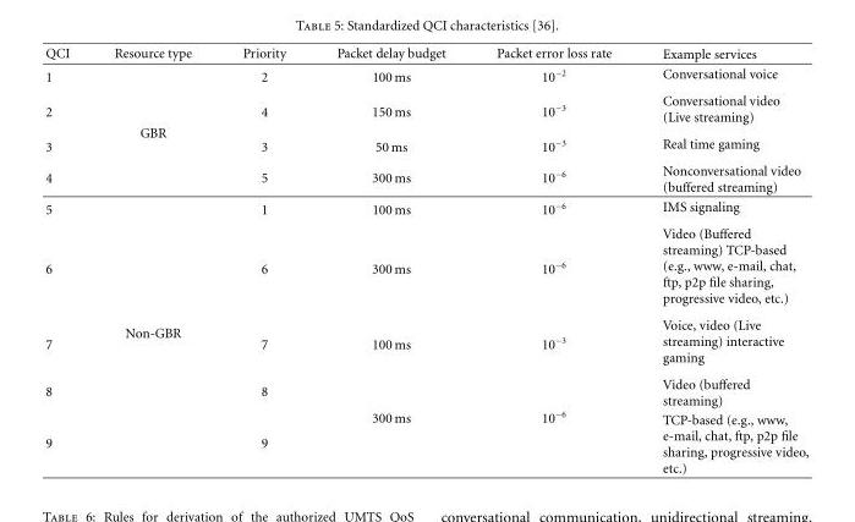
<table><thead><tr><td>QCI</td><td>Resource type</td><td>Priority</td><td>Packet delay budget</td><td>Packet error loss rate</td><td>Example services</td></tr></thead><tbody><tr><td>1</td><td rowspan="4">GBR</td><td>2</td><td>100 ms</td><td>10<sup>−2</sup></td><td>Conversational voice</td></tr><tr><td>2</td><td>4</td><td>150 ms</td><td>10<sup>−3</sup></td><td>Conversational video (Live streaming)</td></tr><tr><td>3</td><td>3</td><td>50 ms</td><td>10<sup>−3</sup></td><td>Real time gaming</td></tr><tr><td>4</td><td>5</td><td>300 ms</td><td>10<sup>−6</sup></td><td>Nonconversational video (buffered streaming)</td></tr><tr><td>5</td><td rowspan="5">Non-GBR</td><td>1</td><td>100 ms</td><td>10<sup>−6</sup></td><td>IMS signaling</td></tr><tr><td>6</td><td>6</td><td>300 ms</td><td>10<sup>−6</sup></td><td>Video (Buffered streaming) TCP-based (e.g., www, e-mail, chat, ftp, p2p file sharing, progressive video, etc.)</td></tr><tr><td>7</td><td>7</td><td>100 ms</td><td>10<sup>−3</sup></td><td>Voice, video (Live streaming) interactive gaming</td></tr><tr><td>8</td><td>8</td><td rowspan="2">300 ms</td><td rowspan="2">10<sup>−6</sup></td><td>Video (buffered streaming)</td></tr><tr><td>9</td><td>9</td><td>TCP-based (e.g., www, e-mail, chat, ftp, p2p file sharing, progressive video, etc.)</td></tr></tbody></table>